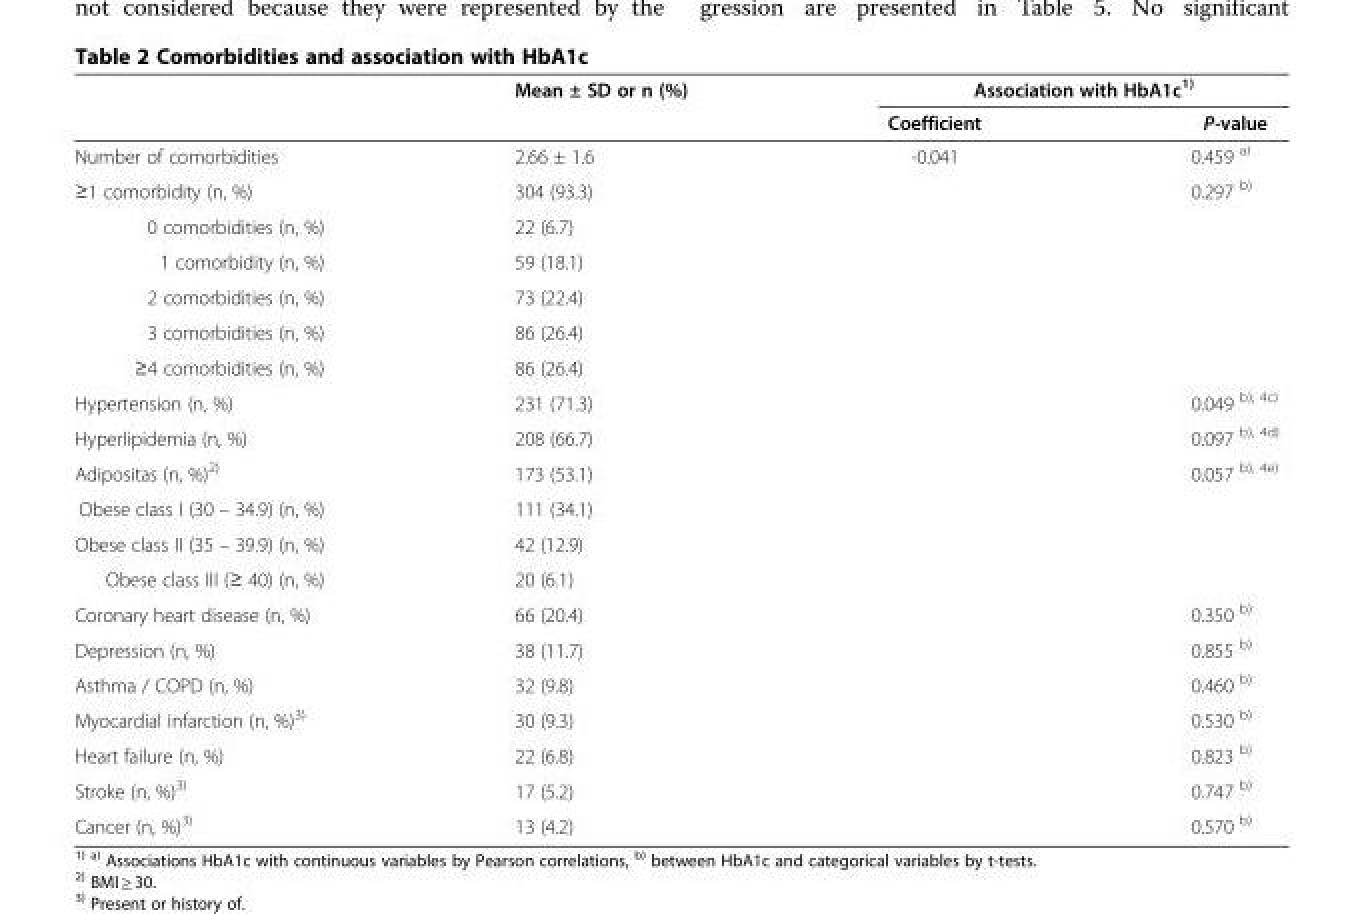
<table><thead><tr><td rowspan="2"></td><td rowspan="2">Mean ± SD or n (%)</td><td colspan="2">Association with HbA1c<sup>1)</sup></td></tr><tr><td>Coefficient</td><td>P-value</td></tr></thead><tbody><tr><td>Number of comorbidities</td><td>2.66 ± 1.6</td><td>-0.041</td><td>0.459 <sup>a)</sup></td></tr><tr><td>≥1 comorbidity (n, %)</td><td>304 (93.3)</td><td></td><td>0.297 <sup>b)</sup></td></tr><tr><td>0 comorbidities (n, %)</td><td>22 (6.7)</td><td></td><td></td></tr><tr><td>1 comorbidity (n, %)</td><td>59 (18.1)</td><td></td><td></td></tr><tr><td>2 comorbidities (n, %)</td><td>73 (22.4)</td><td></td><td></td></tr><tr><td>3 comorbidities (n, %)</td><td>86 (26.4)</td><td></td><td></td></tr><tr><td>≥4 comorbidities (n, %)</td><td>86 (26.4)</td><td></td><td></td></tr><tr><td>Hypertension (n, %)</td><td>231 (71.3)</td><td></td><td>0.049 <sup>b), 4c)</sup></td></tr><tr><td>Hyperlipidemia (n, %)</td><td>208 (66.7)</td><td></td><td>0.097 <sup>b), 4d)</sup></td></tr><tr><td>Adipositas (n, %)<sup>2)</sup></td><td>173 (53.1)</td><td></td><td>0.057 <sup>b), 4e)</sup></td></tr><tr><td>Obese class I (30 – 34.9) (n, %)</td><td>111 (34.1)</td><td></td><td></td></tr><tr><td>Obese class II (35 – 39.9) (n, %)</td><td>42 (12.9)</td><td></td><td></td></tr><tr><td>Obese class III (≥ 40) (n, %)</td><td>20 (6.1)</td><td></td><td></td></tr><tr><td>Coronary heart disease (n, %)</td><td>66 (20.4)</td><td></td><td>0.350 <sup>b)</sup></td></tr><tr><td>Depression (n, %)</td><td>38 (11.7)</td><td></td><td>0.855 <sup>b)</sup></td></tr><tr><td>Asthma / COPD (n, %)</td><td>32 (9.8)</td><td></td><td>0.460 <sup>b)</sup></td></tr><tr><td>Myocardial infarction (n, %)<sup>3)</sup></td><td>30 (9.3)</td><td></td><td>0.530 <sup>b)</sup></td></tr><tr><td>Heart failure (n, %)</td><td>22 (6.8)</td><td></td><td>0.823 <sup>b)</sup></td></tr><tr><td>Stroke (n, %)<sup>3)</sup></td><td>17 (5.2)</td><td></td><td>0.747 <sup>b)</sup></td></tr><tr><td>Cancer (n, %)<sup>3)</sup></td><td>13 (4.2)</td><td></td><td>0.570 <sup>b)</sup></td></tr></tbody></table>